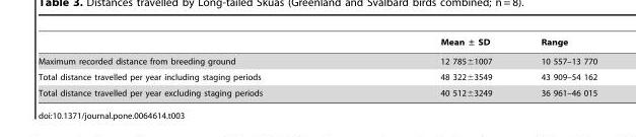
<table><thead><tr><td></td><td>Mean ± SD</td><td>Range</td></tr></thead><tbody><tr><td>Maximum recorded distance from breeding ground</td><td>12 785±1007</td><td>10 557–13 770</td></tr><tr><td>Total distance travelled per year including staging periods</td><td>48 322±3549</td><td>43 909–54 162</td></tr><tr><td>Total distance travelled per year excluding staging periods</td><td>40 512±3249</td><td>36 961–46 015</td></tr></tbody></table>